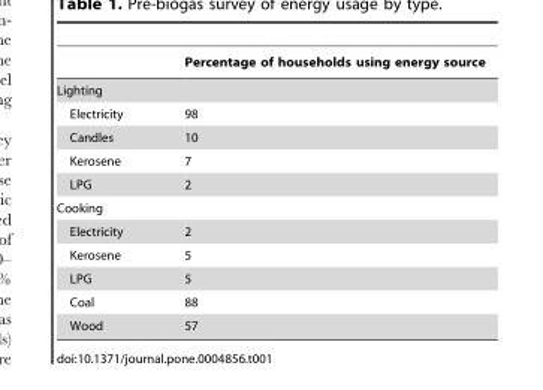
<table><thead><tr><td></td><td>Percentage of households using energy source</td></tr></thead><tbody><tr><td colspan="2">Lighting</td></tr><tr><td>Electricity</td><td>98</td></tr><tr><td>Candles</td><td>10</td></tr><tr><td>Kerosene</td><td>7</td></tr><tr><td>LPG</td><td>2</td></tr><tr><td colspan="2">Cooking</td></tr><tr><td>Electricity</td><td>2</td></tr><tr><td>Kerosene</td><td>5</td></tr><tr><td>LPG</td><td>5</td></tr><tr><td>Coal</td><td>88</td></tr><tr><td>Wood</td><td>57</td></tr></tbody></table>